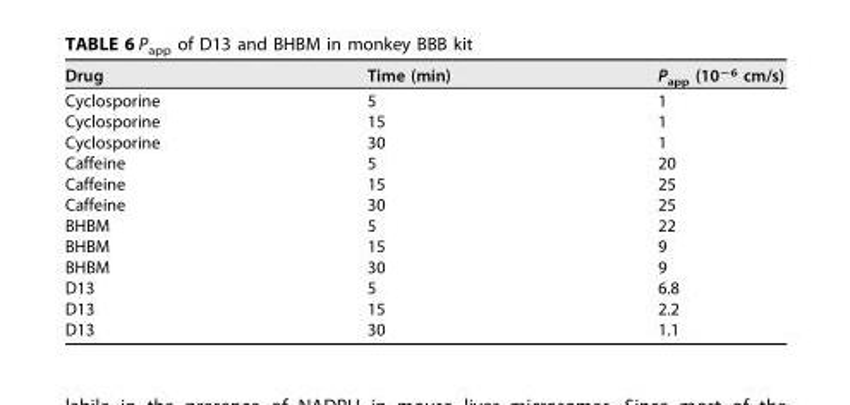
<table><thead><tr><td>Drug</td><td>Time (min)</td><td>P<sub>app</sub> (10<sup>−6</sup> cm/s)</td></tr></thead><tbody><tr><td>Cyclosporine</td><td>5</td><td>1</td></tr><tr><td>Cyclosporine</td><td>15</td><td>1</td></tr><tr><td>Cyclosporine</td><td>30</td><td>1</td></tr><tr><td>Caffeine</td><td>5</td><td>20</td></tr><tr><td>Caffeine</td><td>15</td><td>25</td></tr><tr><td>Caffeine</td><td>30</td><td>25</td></tr><tr><td>BHBM</td><td>5</td><td>22</td></tr><tr><td>BHBM</td><td>15</td><td>9</td></tr><tr><td>BHBM</td><td>30</td><td>9</td></tr><tr><td>D13</td><td>5</td><td>6.8</td></tr><tr><td>D13</td><td>15</td><td>2.2</td></tr><tr><td>D13</td><td>30</td><td>1.1</td></tr></tbody></table>